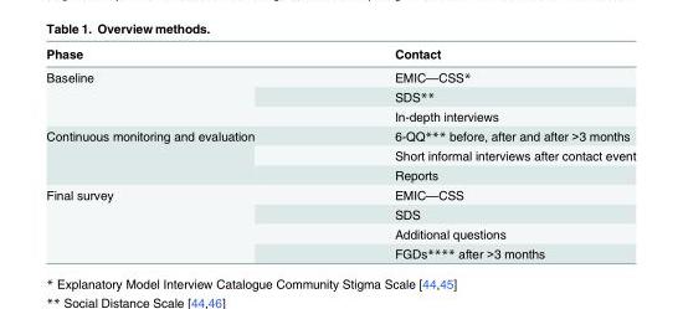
<table><thead><tr><td>Phase</td><td>Contact</td></tr></thead><tbody><tr><td rowspan="3">Baseline</td><td>EMIC—CSS*</td></tr><tr><td>SDS**</td></tr><tr><td>In-depth interviews</td></tr><tr><td rowspan="3">Continuous monitoring and evaluation</td><td>6-QQ*** before, after and after &gt;3 months</td></tr><tr><td>Short informal interviews after contact event</td></tr><tr><td>Reports</td></tr><tr><td rowspan="4">Final survey</td><td>EMIC—CSS</td></tr><tr><td>SDS</td></tr><tr><td>Additional questions</td></tr><tr><td>FGDs**** after &gt;3 months</td></tr></tbody></table>